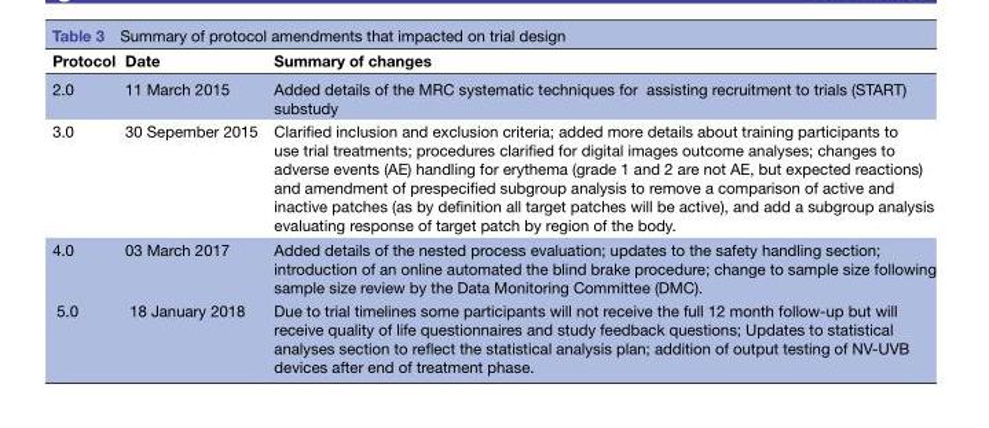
<table><thead><tr><td>Protocol</td><td>Date</td><td>Summary of changes</td></tr></thead><tbody><tr><td>2.0</td><td>11 March 2015</td><td>Added details of the MRC systematic techniques for assisting recruitment to trials (START) substudy</td></tr><tr><td>3.0</td><td>30 Sepember 2015</td><td>Clarified inclusion and exclusion criteria; added more details about training participants to use trial treatments; procedures clarified for digital images outcome analyses; changes to adverse events (AE) handling for erythema (grade 1 and 2 are not AE, but expected reactions) and amendment of prespecified subgroup analysis to remove a comparison of active and inactive patches (as by definition all target patches will be active), and add a subgroup analysis evaluating response of target patch by region of the body.</td></tr><tr><td>4.0</td><td>03 March 2017</td><td>Added details of the nested process evaluation; updates to the safety handling section; introduction of an online automated the blind brake procedure; change to sample size following sample size review by the Data Monitoring Committee (DMC).</td></tr><tr><td>5.0</td><td>18 January 2018</td><td>Due to trial timelines some participants will not receive the full 12 month follow-up but will receive quality of life questionnaires and study feedback questions; Updates to statistical analyses section to reflect the statistical analysis plan; addition of output testing of NV-UVB devices after end of treatment phase.</td></tr></tbody></table>